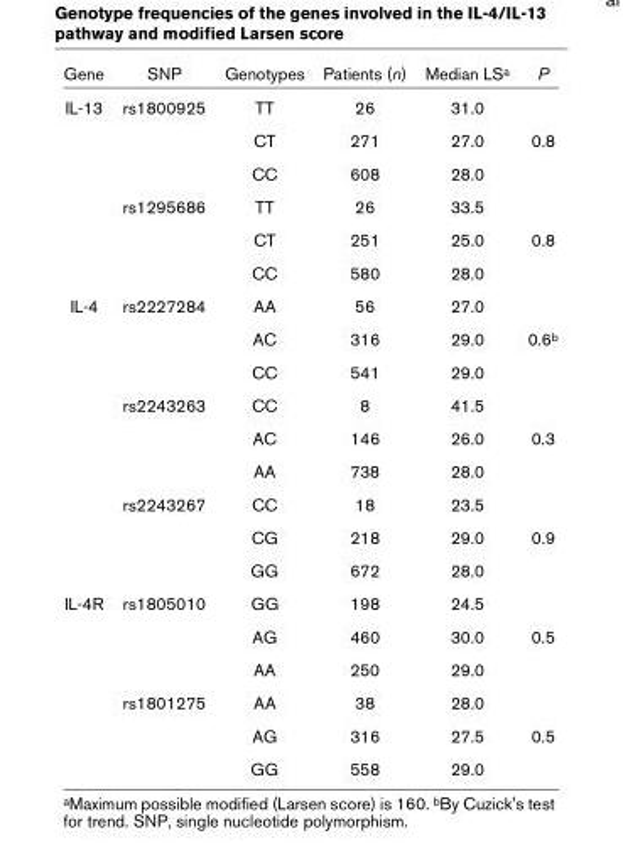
<table><thead><tr><td>Gene</td><td>SNP</td><td>Genotypes</td><td>Patients (n)</td><td>Median LS<sup>a</sup></td><td>P</td></tr></thead><tbody><tr><td rowspan="6">IL-13</td><td>rs1800925</td><td>TT</td><td>26</td><td>31.0</td><td></td></tr><tr><td></td><td>CT</td><td>271</td><td>27.0</td><td>0.8</td></tr><tr><td></td><td>CC</td><td>608</td><td>28.0</td><td></td></tr><tr><td>rs1295686</td><td>TT</td><td>26</td><td>33.5</td><td></td></tr><tr><td></td><td>CT</td><td>251</td><td>25.0</td><td>0.8</td></tr><tr><td></td><td>CC</td><td>580</td><td>28.0</td><td></td></tr><tr><td rowspan="9">IL-4</td><td>rs2227284</td><td>AA</td><td>56</td><td>27.0</td><td></td></tr><tr><td></td><td>AC</td><td>316</td><td>29.0</td><td>0.6<sup>b</sup></td></tr><tr><td></td><td>CC</td><td>541</td><td>29.0</td><td></td></tr><tr><td>rs2243263</td><td>CC</td><td>8</td><td>41.5</td><td></td></tr><tr><td></td><td>AC</td><td>146</td><td>26.0</td><td>0.3</td></tr><tr><td></td><td>AA</td><td>738</td><td>28.0</td><td></td></tr><tr><td>rs2243267</td><td>CC</td><td>18</td><td>23.5</td><td></td></tr><tr><td></td><td>CG</td><td>218</td><td>29.0</td><td>0.9</td></tr><tr><td></td><td>GG</td><td>672</td><td>28.0</td><td></td></tr><tr><td rowspan="6">IL-4R</td><td>rs1805010</td><td>GG</td><td>198</td><td>24.5</td><td></td></tr><tr><td></td><td>AG</td><td>460</td><td>30.0</td><td>0.5</td></tr><tr><td></td><td>AA</td><td>250</td><td>29.0</td><td></td></tr><tr><td>rs1801275</td><td>AA</td><td>38</td><td>28.0</td><td></td></tr><tr><td></td><td>AG</td><td>316</td><td>27.5</td><td>0.5</td></tr><tr><td></td><td>GG</td><td>558</td><td>29.0</td><td></td></tr></tbody></table>